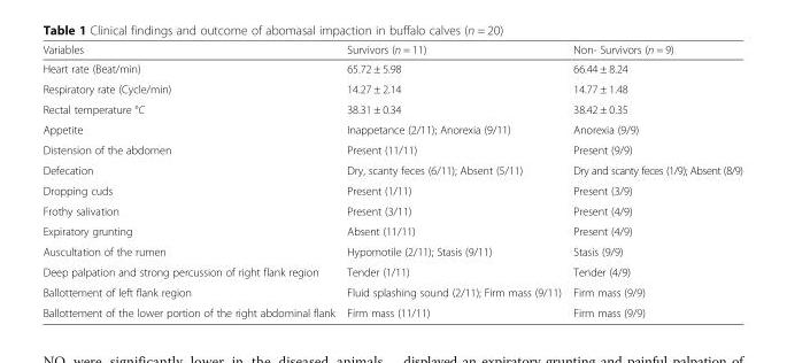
<table><thead><tr><td>Variables</td><td>Survivors (n = 11)</td><td>Non- Survivors (n = 9)</td></tr></thead><tbody><tr><td>Heart rate (Beat/min)</td><td>65.72 ± 5.98</td><td>66.44 ± 8.24</td></tr><tr><td>Respiratory rate (Cycle/min)</td><td>14.27 ± 2.14</td><td>14.77 ± 1.48</td></tr><tr><td>Rectal temperature °C</td><td>38.31 ± 0.34</td><td>38.42 ± 0.35</td></tr><tr><td>Appetite</td><td>Inappetance (2/11); Anorexia (9/11)</td><td>Anorexia (9/9)</td></tr><tr><td>Distension of the abdomen</td><td>Present (11/11)</td><td>Present (9/9)</td></tr><tr><td>Defecation</td><td>Dry, scanty feces (6/11); Absent (5/11)</td><td>Dry and scanty feces (1/9); Absent (8/9)</td></tr><tr><td>Dropping cuds</td><td>Present (1/11)</td><td>Present (3/9)</td></tr><tr><td>Frothy salivation</td><td>Present (3/11)</td><td>Present (4/9)</td></tr><tr><td>Expiratory grunting</td><td>Absent (11/11)</td><td>Present (4/9)</td></tr><tr><td>Auscultation of the rumen</td><td>Hypomotile (2/11); Stasis (9/11)</td><td>Stasis (9/9)</td></tr><tr><td>Deep palpation and strong percussion of right flank region</td><td>Tender (1/11)</td><td>Tender (4/9)</td></tr><tr><td>Ballottement of left flank region</td><td>Fluid splashing sound (2/11); Firm mass (9/11)</td><td>Firm mass (9/9)</td></tr><tr><td>Ballottement of the lower portion of the right abdominal flank</td><td>Firm mass (11/11)</td><td>Firm mass (9/9)</td></tr></tbody></table>